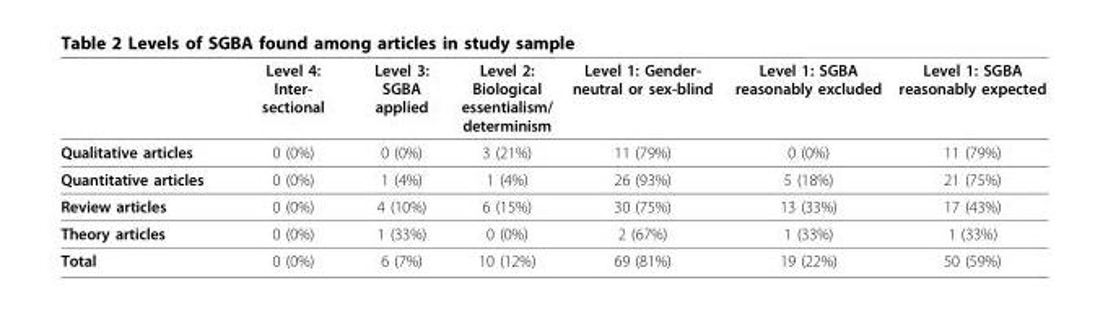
<table><thead><tr><td></td><td>Level 4: Inter- sectional</td><td>Level 3: SGBA applied</td><td>Level 2: Biological essentialism/ determinism</td><td>Level 1: Gender- neutral or sex-blind</td><td>Level 1: SGBA reasonably excluded</td><td>Level 1: SGBA reasonably expected</td></tr></thead><tbody><tr><td>Qualitative articles</td><td>0 (0%)</td><td>0 (0%)</td><td>3 (21%)</td><td>11 (79%)</td><td>0 (0%)</td><td>11 (79%)</td></tr><tr><td>Quantitative articles</td><td>0 (0%)</td><td>1 (4%)</td><td>1 (4%)</td><td>26 (93%)</td><td>5 (18%)</td><td>21 (75%)</td></tr><tr><td>Review articles</td><td>0 (0%)</td><td>4 (10%)</td><td>6 (15%)</td><td>30 (75%)</td><td>13 (33%)</td><td>17 (43%)</td></tr><tr><td>Theory articles</td><td>0 (0%)</td><td>1 (33%)</td><td>0 (0%)</td><td>2 (67%)</td><td>1 (33%)</td><td>1 (33%)</td></tr><tr><td>Total</td><td>0 (0%)</td><td>6 (7%)</td><td>10 (12%)</td><td>69 (81%)</td><td>19 (22%)</td><td>50 (59%)</td></tr></tbody></table>